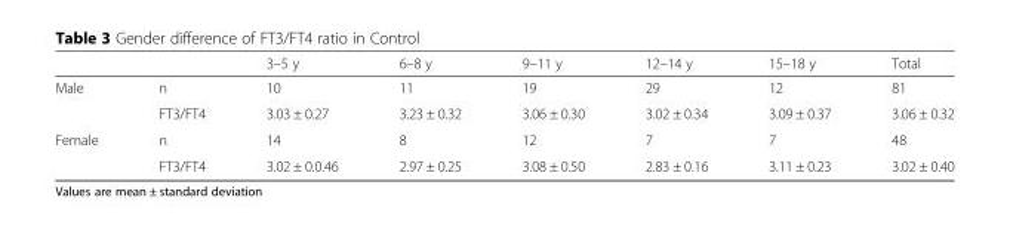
<table><thead><tr><td></td><td></td><td>3–5 y</td><td>6–8 y</td><td>9–11 y</td><td>12–14 y</td><td>15–18 y</td><td>Total</td></tr></thead><tbody><tr><td rowspan="2">Male</td><td>n</td><td>10</td><td>11</td><td>19</td><td>29</td><td>12</td><td>81</td></tr><tr><td>FT3/FT4</td><td>3.03 ± 0.27</td><td>3.23 ± 0.32</td><td>3.06 ± 0.30</td><td>3.02 ± 0.34</td><td>3.09 ± 0.37</td><td>3.06 ± 0.32</td></tr><tr><td rowspan="2">Female</td><td>n</td><td>14</td><td>8</td><td>12</td><td>7</td><td>7</td><td>48</td></tr><tr><td>FT3/FT4</td><td>3.02 ± 0.0.46</td><td>2.97 ± 0.25</td><td>3.08 ± 0.50</td><td>2.83 ± 0.16</td><td>3.11 ± 0.23</td><td>3.02 ± 0.40</td></tr></tbody></table>